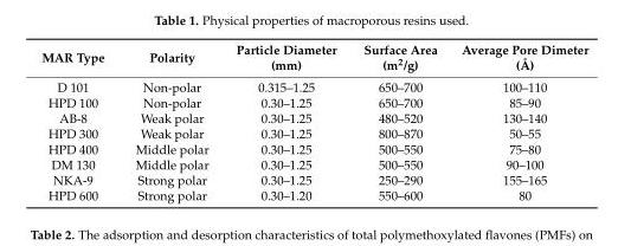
<table><thead><tr><td>MAR Type</td><td>Polarity</td><td>Particle Diameter (mm)</td><td>Surface Area (m<sup>2</sup>/g)</td><td>Average Pore Dimeter (Å)</td></tr></thead><tbody><tr><td>D 101</td><td>Non-polar</td><td>0.315–1.25</td><td>650–700</td><td>100–110</td></tr><tr><td>HPD 100</td><td>Non-polar</td><td>0.30–1.25</td><td>650–700</td><td>85–90</td></tr><tr><td>AB-8</td><td>Weak polar</td><td>0.30–1.25</td><td>480–520</td><td>130–140</td></tr><tr><td>HPD 300</td><td>Weak polar</td><td>0.30–1.25</td><td>800–870</td><td>50–55</td></tr><tr><td>HPD 400</td><td>Middle polar</td><td>0.30–1.25</td><td>500–550</td><td>75–80</td></tr><tr><td>DM 130</td><td>Middle polar</td><td>0.30–1.25</td><td>500–550</td><td>90–100</td></tr><tr><td>NKA-9</td><td>Strong polar</td><td>0.30–1.25</td><td>250–290</td><td>155–165</td></tr><tr><td>HPD 600</td><td>Strong polar</td><td>0.30–1.20</td><td>550–600</td><td>80</td></tr></tbody></table>